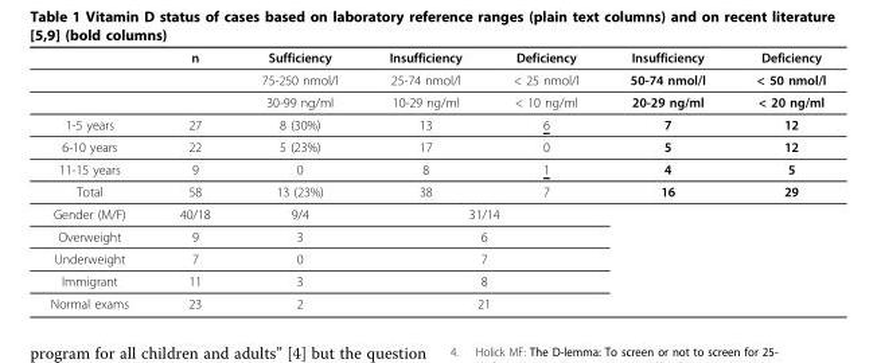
<table><thead><tr><td></td><td>n</td><td>Sufficiency</td><td>Insufficiency</td><td>Deficiency</td><td>Insufficiency</td><td>Deficiency</td></tr></thead><tbody><tr><td></td><td></td><td>75-250 nmol/l</td><td>25-74 nmol/l</td><td>&lt; 25 nmol/l</td><td>50-74 nmol/l</td><td>&lt; 50 nmol/l</td></tr><tr><td></td><td></td><td>30-99 ng/ml</td><td>10-29 ng/ml</td><td>&lt; 10 ng/ml</td><td>20-29 ng/ml</td><td>&lt; 20 ng/ml</td></tr><tr><td>1-5 years</td><td>27</td><td>8 (30%)</td><td>13</td><td>6</td><td>7</td><td>12</td></tr><tr><td>6-10 years</td><td>22</td><td>5 (23%)</td><td>17</td><td>0</td><td>5</td><td>12</td></tr><tr><td>11-15 years</td><td>9</td><td>0</td><td>8</td><td>1</td><td>4</td><td>5</td></tr><tr><td>Total</td><td>58</td><td>13 (23%)</td><td>38</td><td>7</td><td>16</td><td>29</td></tr><tr><td>Gender (M/F)</td><td>40/18</td><td>9/4</td><td colspan="2">31/14</td><td></td><td></td></tr><tr><td>Overweight</td><td>9</td><td>3</td><td colspan="2">6</td><td></td><td></td></tr><tr><td>Underweight</td><td>7</td><td>0</td><td colspan="2">7</td><td></td><td></td></tr><tr><td>Immigrant</td><td>11</td><td>3</td><td colspan="2">8</td><td></td><td></td></tr><tr><td>Normal exams</td><td>23</td><td>2</td><td colspan="2">21</td><td></td><td></td></tr></tbody></table>